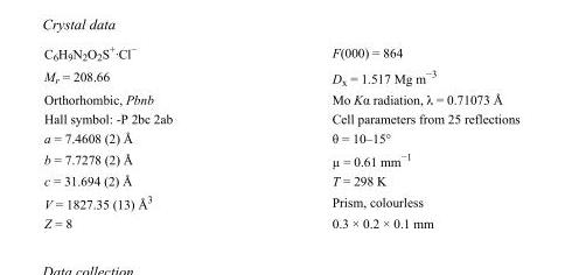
<table><tbody><tr><td>C<sub>6</sub>H<sub>9</sub>N<sub>2</sub>O<sub>2</sub>S<sup>+</sup>·Cl<sup>−</sup></td><td>F(000) = 864</td></tr><tr><td>M<sub>r</sub> = 208.66</td><td>D<sub>x</sub> = 1.517 Mg m<sup>−3</sup></td></tr><tr><td>Orthorhombic, Pbnb</td><td>Mo Kα radiation, λ = 0.71073 Å</td></tr><tr><td>Hall symbol: -P 2bc 2ab</td><td>Cell parameters from 25 reflections</td></tr><tr><td>a = 7.4608 (2) Å</td><td>θ = 10–15°</td></tr><tr><td>b = 7.7278 (2) Å</td><td>µ = 0.61 mm<sup>−1</sup></td></tr><tr><td>c = 31.694 (2) Å</td><td>T = 298 K</td></tr><tr><td>V = 1827.35 (13) Å<sup>3</sup></td><td>Prism, colourless</td></tr><tr><td>Z = 8</td><td>0.3 × 0.2 × 0.1 mm</td></tr></tbody></table>